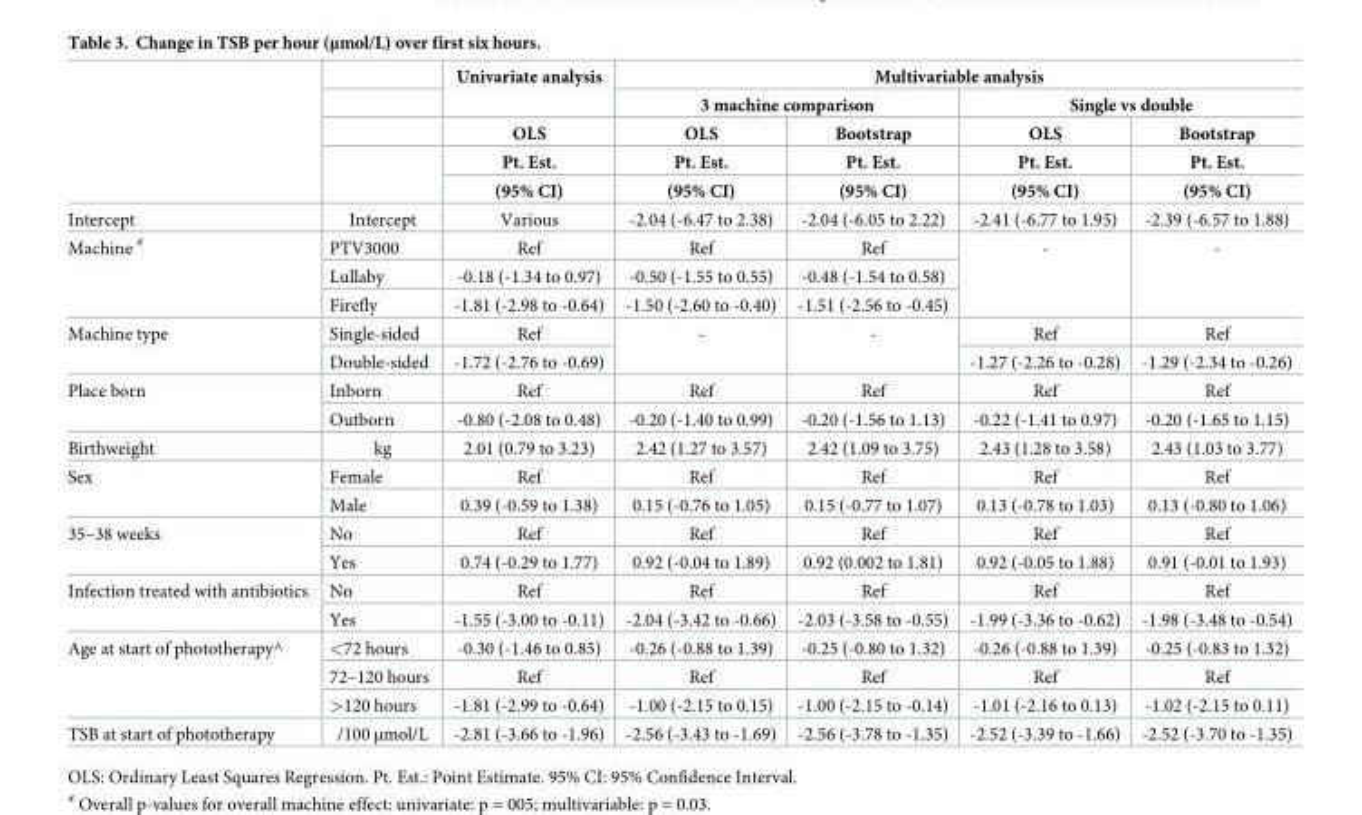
<table><thead><tr><td rowspan="5"></td><td rowspan="5"></td><td rowspan="5">Univariate analysis OLS Pt. Est. (95% CI)</td><td colspan="4">Multivariable analysis</td></tr><tr><td colspan="2">3 machine comparison</td><td colspan="2">Single vs double</td></tr><tr><td rowspan="3">OLS Pt. Est. (95% CI)</td><td rowspan="3">Bootstrap Pt. Est. (95% CI)</td><td rowspan="3">OLS Pt. Est. (95% CI)</td><td rowspan="3">Bootstrap Pt. Est. (95% CI)</td></tr><tr></tr><tr></tr></thead><tbody><tr><td>Intercept</td><td>Intercept</td><td>Various</td><td>-2.04 (-6.47 to 2.38)</td><td>-2.04 (-6.05 to 2.22)</td><td>-2.41 (-6.77 to 1.95)</td><td>-2.39 (-6.57 to 1.88)</td></tr><tr><td rowspan="3">Machine <sup>#</sup></td><td>PTV3000</td><td>Ref</td><td>Ref</td><td>Ref</td><td rowspan="3">-</td><td rowspan="3">-</td></tr><tr><td>Lullaby</td><td>-0.18 (-1.34 to 0.97)</td><td>-0.50 (-1.55 to 0.55)</td><td>-0.48 (-1.54 to 0.58)</td></tr><tr><td>Firefly</td><td>-1.81 (-2.98 to -0.64)</td><td>-1.50 (-2.60 to -0.40)</td><td>-1.51 (-2.56 to -0.45)</td></tr><tr><td rowspan="2">Machine type</td><td>Single-sided</td><td>Ref</td><td rowspan="2">-</td><td rowspan="2">-</td><td>Ref</td><td>Ref</td></tr><tr><td>Double-sided</td><td>-1.72 (-2.76 to -0.69)</td><td>-1.27 (-2.26 to -0.28)</td><td>-1.29 (-2.34 to -0.26)</td></tr><tr><td rowspan="2">Place born</td><td>Inborn</td><td>Ref</td><td>Ref</td><td>Ref</td><td>Ref</td><td>Ref</td></tr><tr><td>Outborn</td><td>-0.80 (-2.08 to 0.48)</td><td>-0.20 (-1.40 to 0.99)</td><td>-0.20 (-1.56 to 1.13)</td><td>-0.22 (-1.41 to 0.97)</td><td>-0.20 (-1.65 to 1.15)</td></tr><tr><td>Birthweight</td><td>kg</td><td>2.01 (0.79 to 3.23)</td><td>2.42 (1.27 to 3.57)</td><td>2.42 (1.09 to 3.75)</td><td>2.43 (1.28 to 3.58)</td><td>2.43 (1.03 to 3.77)</td></tr><tr><td rowspan="2">Sex</td><td>Female</td><td>Ref</td><td>Ref</td><td>Ref</td><td>Ref</td><td>Ref</td></tr><tr><td>Male</td><td>0.39 (-0.59 to 1.38)</td><td>0.15 (-0.76 to 1.05)</td><td>0.15 (-0.77 to 1.07)</td><td>0.13 (-0.78 to 1.03)</td><td>0.13 (-0.80 to 1.06)</td></tr><tr><td rowspan="2">35–38 weeks</td><td>No</td><td>Ref</td><td>Ref</td><td>Ref</td><td>Ref</td><td>Ref</td></tr><tr><td>Yes</td><td>0.74 (-0.29 to 1.77)</td><td>0.92 (-0.04 to 1.89)</td><td>0.92 (0.002 to 1.81)</td><td>0.92 (-0.05 to 1.88)</td><td>0.91 (-0.01 to 1.93)</td></tr><tr><td rowspan="2">Infection treated with antibiotics</td><td>No</td><td>Ref</td><td>Ref</td><td>Ref</td><td>Ref</td><td>Ref</td></tr><tr><td>Yes</td><td>-1.55 (-3.00 to -0.11)</td><td>-2.04 (-3.42 to -0.66)</td><td>-2.03 (-3.58 to -0.55)</td><td>-1.99 (-3.36 to -0.62)</td><td>-1.98 (-3.48 to -0.54)</td></tr><tr><td rowspan="3">Age at start of phototherapy^</td><td>&lt;72 hours</td><td>-0.30 (-1.46 to 0.85)</td><td>-0.26 (-0.88 to 1.39)</td><td>-0.25 (-0.80 to 1.32)</td><td>-0.26 (-0.88 to 1.39)</td><td>-0.25 (-0.83 to 1.32)</td></tr><tr><td>72–120 hours</td><td>Ref</td><td>Ref</td><td>Ref</td><td>Ref</td><td>Ref</td></tr><tr><td>&gt;120 hours</td><td>-1.81 (-2.99 to -0.64)</td><td>-1.00 (-2.15 to 0.15)</td><td>-1.00 (-2.15 to -0.14)</td><td>-1.01 (-2.16 to 0.13)</td><td>-1.02 (-2.15 to 0.11)</td></tr><tr><td>TSB at start of phototherapy</td><td>/100 μmol/L</td><td>-2.81 (-3.66 to -1.96)</td><td>-2.56 (-3.43 to -1.69)</td><td>-2.56 (-3.78 to -1.35)</td><td>-2.52 (-3.39 to -1.66)</td><td>-2.52 (-3.70 to -1.35)</td></tr></tbody></table>